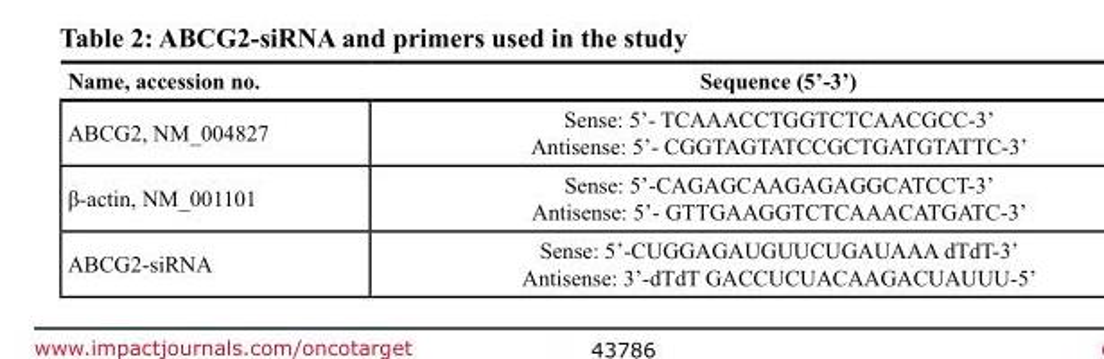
<table><thead><tr><td>Name, accession no.</td><td>Sequence (5’-3’)</td></tr></thead><tbody><tr><td>ABCG2, NM_004827</td><td>Sense: 5’- TCAAACCTGGTCTCAACGCC-3’ Antisense: 5’- CGGTAGTATCCGCTGATGTATTC-3’</td></tr><tr><td>β-actin, NM_001101</td><td>Sense: 5’-CAGAGCAAGAGAGGCATCCT-3’ Antisense: 5’- GTTGAAGGTCTCAAACATGATC-3’</td></tr><tr><td>ABCG2-siRNA</td><td>Sense: 5’-CUGGAGAUGUUCUGAUAAA dTdT-3’ Antisense: 3’-dTdT GACCUCUACAAGACUAUUU-5’</td></tr></tbody></table>